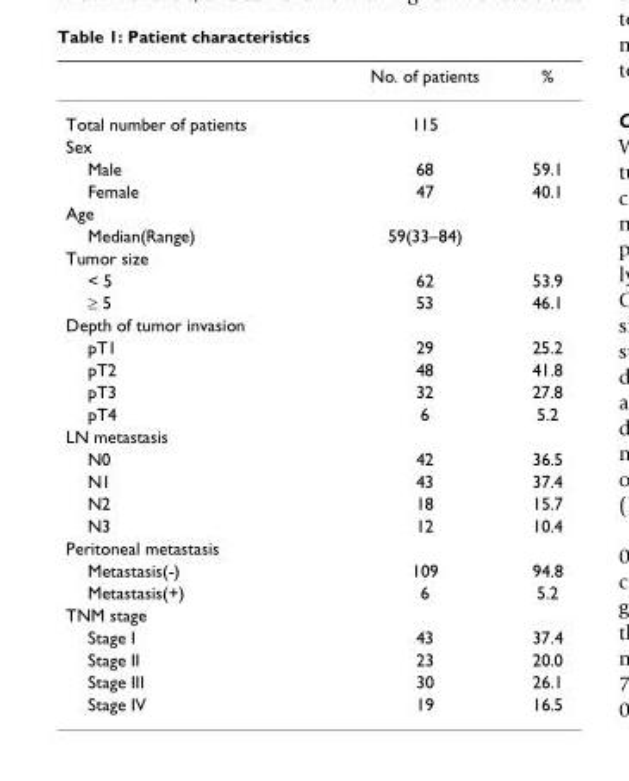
<table><thead><tr><td></td><td>No. of patients</td><td>%</td></tr></thead><tbody><tr><td>Total number of patients</td><td>115</td><td></td></tr><tr><td colspan="3">Sex</td></tr><tr><td>Male</td><td>68</td><td>59.1</td></tr><tr><td>Female</td><td>47</td><td>40.1</td></tr><tr><td colspan="3">Age</td></tr><tr><td>Median(Range)</td><td>59(33–84)</td><td></td></tr><tr><td colspan="3">Tumor size</td></tr><tr><td>&lt; 5</td><td>62</td><td>53.9</td></tr><tr><td>≥ 5</td><td>53</td><td>46.1</td></tr><tr><td colspan="3">Depth of tumor invasion</td></tr><tr><td>pT1</td><td>29</td><td>25.2</td></tr><tr><td>pT2</td><td>48</td><td>41.8</td></tr><tr><td>pT3</td><td>32</td><td>27.8</td></tr><tr><td>pT4</td><td>6</td><td>5.2</td></tr><tr><td colspan="3">LN metastasis</td></tr><tr><td>N0</td><td>42</td><td>36.5</td></tr><tr><td>N1</td><td>43</td><td>37.4</td></tr><tr><td>N2</td><td>18</td><td>15.7</td></tr><tr><td>N3</td><td>12</td><td>10.4</td></tr><tr><td colspan="3">Peritoneal metastasis</td></tr><tr><td>Metastasis(-)</td><td>109</td><td>94.8</td></tr><tr><td>Metastasis(+)</td><td>6</td><td>5.2</td></tr><tr><td colspan="3">TNM stage</td></tr><tr><td>Stage I</td><td>43</td><td>37.4</td></tr><tr><td>Stage II</td><td>23</td><td>20.0</td></tr><tr><td>Stage III</td><td>30</td><td>26.1</td></tr><tr><td>Stage IV</td><td>19</td><td>16.5</td></tr></tbody></table>